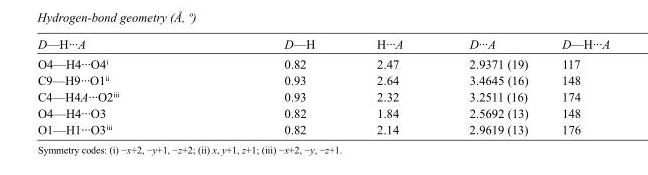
<table><tbody><tr><td>D—H···A</td><td>D—H</td><td>H···A</td><td>D···A</td><td>D—H···A</td></tr><tr><td>O4—H4···O4<sup>i</sup></td><td>0.82</td><td>2.47</td><td>2.9371 (19)</td><td>117</td></tr><tr><td>C9—H9···O1<sup>ii</sup></td><td>0.93</td><td>2.64</td><td>3.4645 (16)</td><td>148</td></tr><tr><td>C4—H4A···O2<sup>iii</sup></td><td>0.93</td><td>2.32</td><td>3.2511 (16)</td><td>174</td></tr><tr><td>O4—H4···O3</td><td>0.82</td><td>1.84</td><td>2.5692 (13)</td><td>148</td></tr><tr><td>O1—H1···O3<sup>iii</sup></td><td>0.82</td><td>2.14</td><td>2.9619 (13)</td><td>176</td></tr></tbody></table>